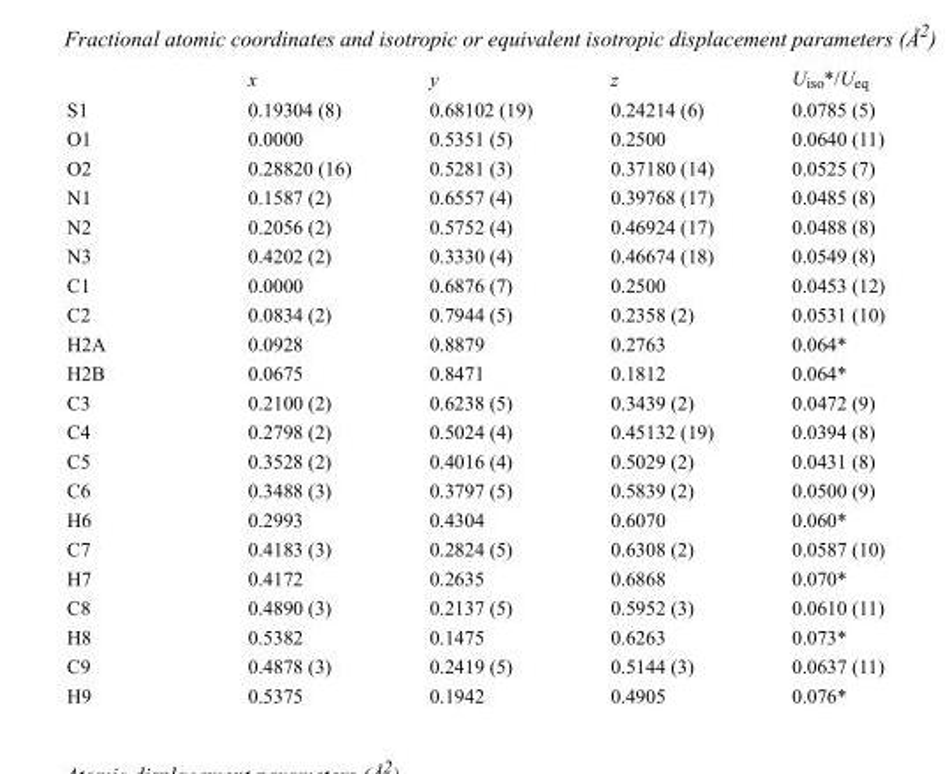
<table><thead><tr><td></td><td>x</td><td>y</td><td>z</td><td>U<sub>iso</sub>*/U<sub>eq</sub></td></tr></thead><tbody><tr><td>S1</td><td>0.19304 (8)</td><td>0.68102 (19)</td><td>0.24214 (6)</td><td>0.0785 (5)</td></tr><tr><td>O1</td><td>0.0000</td><td>0.5351 (5)</td><td>0.2500</td><td>0.0640 (11)</td></tr><tr><td>O2</td><td>0.28820 (16)</td><td>0.5281 (3)</td><td>0.37180 (14)</td><td>0.0525 (7)</td></tr><tr><td>N1</td><td>0.1587 (2)</td><td>0.6557 (4)</td><td>0.39768 (17)</td><td>0.0485 (8)</td></tr><tr><td>N2</td><td>0.2056 (2)</td><td>0.5752 (4)</td><td>0.46924 (17)</td><td>0.0488 (8)</td></tr><tr><td>N3</td><td>0.4202 (2)</td><td>0.3330 (4)</td><td>0.46674 (18)</td><td>0.0549 (8)</td></tr><tr><td>C1</td><td>0.0000</td><td>0.6876 (7)</td><td>0.2500</td><td>0.0453 (12)</td></tr><tr><td>C2</td><td>0.0834 (2)</td><td>0.7944 (5)</td><td>0.2358 (2)</td><td>0.0531 (10)</td></tr><tr><td>H2A</td><td>0.0928</td><td>0.8879</td><td>0.2763</td><td>0.064*</td></tr><tr><td>H2B</td><td>0.0675</td><td>0.8471</td><td>0.1812</td><td>0.064*</td></tr><tr><td>C3</td><td>0.2100 (2)</td><td>0.6238 (5)</td><td>0.3439 (2)</td><td>0.0472 (9)</td></tr><tr><td>C4</td><td>0.2798 (2)</td><td>0.5024 (4)</td><td>0.45132 (19)</td><td>0.0394 (8)</td></tr><tr><td>C5</td><td>0.3528 (2)</td><td>0.4016 (4)</td><td>0.5029 (2)</td><td>0.0431 (8)</td></tr><tr><td>C6</td><td>0.3488 (3)</td><td>0.3797 (5)</td><td>0.5839 (2)</td><td>0.0500 (9)</td></tr><tr><td>H6</td><td>0.2993</td><td>0.4304</td><td>0.6070</td><td>0.060*</td></tr><tr><td>C7</td><td>0.4183 (3)</td><td>0.2824 (5)</td><td>0.6308 (2)</td><td>0.0587 (10)</td></tr><tr><td>H7</td><td>0.4172</td><td>0.2635</td><td>0.6868</td><td>0.070*</td></tr><tr><td>C8</td><td>0.4890 (3)</td><td>0.2137 (5)</td><td>0.5952 (3)</td><td>0.0610 (11)</td></tr><tr><td>H8</td><td>0.5382</td><td>0.1475</td><td>0.6263</td><td>0.073*</td></tr><tr><td>C9</td><td>0.4878 (3)</td><td>0.2419 (5)</td><td>0.5144 (3)</td><td>0.0637 (11)</td></tr><tr><td>H9</td><td>0.5375</td><td>0.1942</td><td>0.4905</td><td>0.076*</td></tr></tbody></table>